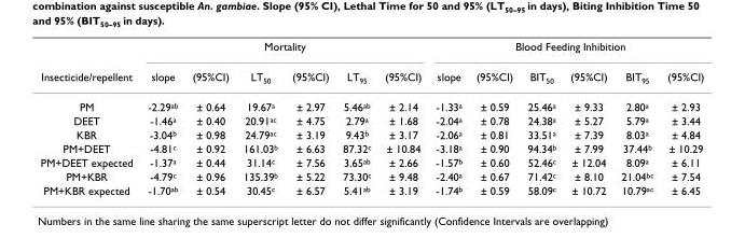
<table><thead><tr><td rowspan="2">Insecticide/repellent</td><td colspan="6">Mortality</td><td colspan="6">Blood Feeding Inhibition</td></tr><tr><td>slope</td><td>(95%CI)</td><td>LT<sub>50</sub></td><td>(95%CI)</td><td>LT<sub>95</sub></td><td>(95%CI)</td><td>slope</td><td>(95%CI)</td><td>BIT<sub>50</sub></td><td>(95%CI)</td><td>BIT<sub>95</sub></td><td>(95%CI)</td></tr></thead><tbody><tr><td>PM</td><td>-2.29<sup>ab</sup></td><td>± 0.64</td><td>19.67<sup>a</sup></td><td>± 2.97</td><td>5.46<sup>ab</sup></td><td>± 2.14</td><td>-1.33<sup>a</sup></td><td>± 0.59</td><td>25.46<sup>a</sup></td><td>± 9.33</td><td>2.80<sup>a</sup></td><td>± 2.93</td></tr><tr><td>DEET</td><td>-1.46<sup>a</sup></td><td>± 0.40</td><td>20.91<sup>ac</sup></td><td>± 4.75</td><td>2.79<sup>a</sup></td><td>± 1.68</td><td>-2.04<sup>a</sup></td><td>± 0.78</td><td>24.38<sup>a</sup></td><td>± 5.27</td><td>5.79<sup>a</sup></td><td>± 3.44</td></tr><tr><td>KBR</td><td>-3.04<sup>b</sup></td><td>± 0.98</td><td>24.79<sup>ac</sup></td><td>± 3.19</td><td>9.43<sup>b</sup></td><td>± 3.17</td><td>-2.06<sup>a</sup></td><td>± 0.81</td><td>33.51<sup>a</sup></td><td>± 7.39</td><td>8.03<sup>a</sup></td><td>± 4.84</td></tr><tr><td>PM+DEET</td><td>-4.81<sup>c</sup></td><td>± 0.92</td><td>161.03<sup>b</sup></td><td>± 6.63</td><td>87.32<sup>c</sup></td><td>± 10.84</td><td>-3.18<sup>a</sup></td><td>± 0.90</td><td>94.34<sup>b</sup></td><td>± 7.99</td><td>37.44<sup>b</sup></td><td>± 10.29</td></tr><tr><td>PM+DEET expected</td><td>-1.37<sup>a</sup></td><td>± 0.44</td><td>31.14<sup>c</sup></td><td>± 7.56</td><td>3.65<sup>ab</sup></td><td>± 2.66</td><td>-1.57<sup>b</sup></td><td>± 0.60</td><td>52.46<sup>c</sup></td><td>± 12.04</td><td>8.09<sup>a</sup></td><td>± 6.11</td></tr><tr><td>PM+KBR</td><td>-4.79<sup>c</sup></td><td>± 0.96</td><td>135.39<sup>b</sup></td><td>± 5.22</td><td>73.30<sup>c</sup></td><td>± 9.48</td><td>-2.40<sup>a</sup></td><td>± 0.67</td><td>71.42<sup>c</sup></td><td>± 8.10</td><td>21.04<sup>bc</sup></td><td>± 7.54</td></tr><tr><td>PM+KBR expected</td><td>-1.70<sup>ab</sup></td><td>± 0.54</td><td>30.45<sup>c</sup></td><td>± 6.57</td><td>5.41<sup>ab</sup></td><td>± 3.19</td><td>-1.74<sup>b</sup></td><td>± 0.59</td><td>58.09<sup>c</sup></td><td>± 10.72</td><td>10.79<sup>ac</sup></td><td>± 6.45</td></tr></tbody></table>